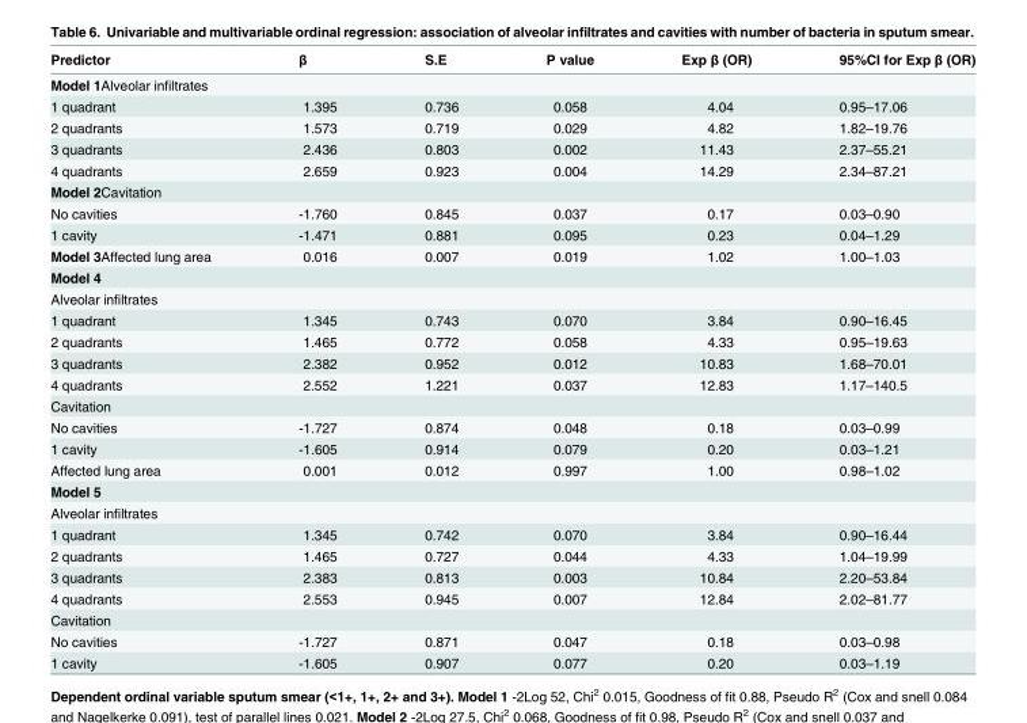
<table><thead><tr><td>Predictor</td><td>β</td><td>S.E</td><td>P value</td><td>Exp β (OR)</td><td>95%CI for Exp β (OR)</td></tr></thead><tbody><tr><td colspan="6">Model 1Alveolar infiltrates</td></tr><tr><td>1 quadrant</td><td>1.395</td><td>0.736</td><td>0.058</td><td>4.04</td><td>0.95–17.06</td></tr><tr><td>2 quadrants</td><td>1.573</td><td>0.719</td><td>0.029</td><td>4.82</td><td>1.82–19.76</td></tr><tr><td>3 quadrants</td><td>2.436</td><td>0.803</td><td>0.002</td><td>11.43</td><td>2.37–55.21</td></tr><tr><td>4 quadrants</td><td>2.659</td><td>0.923</td><td>0.004</td><td>14.29</td><td>2.34–87.21</td></tr><tr><td colspan="6">Model 2Cavitation</td></tr><tr><td>No cavities</td><td>-1.760</td><td>0.845</td><td>0.037</td><td>0.17</td><td>0.03–0.90</td></tr><tr><td>1 cavity</td><td>-1.471</td><td>0.881</td><td>0.095</td><td>0.23</td><td>0.04–1.29</td></tr><tr><td>Model 3Affected lung area</td><td>0.016</td><td>0.007</td><td>0.019</td><td>1.02</td><td>1.00–1.03</td></tr><tr><td colspan="6">Model 4</td></tr><tr><td colspan="6">Alveolar infiltrates</td></tr><tr><td>1 quadrant</td><td>1.345</td><td>0.743</td><td>0.070</td><td>3.84</td><td>0.90–16.45</td></tr><tr><td>2 quadrants</td><td>1.465</td><td>0.772</td><td>0.058</td><td>4.33</td><td>0.95–19.63</td></tr><tr><td>3 quadrants</td><td>2.382</td><td>0.952</td><td>0.012</td><td>10.83</td><td>1.68–70.01</td></tr><tr><td>4 quadrants</td><td>2.552</td><td>1.221</td><td>0.037</td><td>12.83</td><td>1.17–140.5</td></tr><tr><td colspan="6">Cavitation</td></tr><tr><td>No cavities</td><td>-1.727</td><td>0.874</td><td>0.048</td><td>0.18</td><td>0.03–0.99</td></tr><tr><td>1 cavity</td><td>-1.605</td><td>0.914</td><td>0.079</td><td>0.20</td><td>0.03–1.21</td></tr><tr><td>Affected lung area</td><td>0.001</td><td>0.012</td><td>0.997</td><td>1.00</td><td>0.98–1.02</td></tr><tr><td colspan="6">Model 5</td></tr><tr><td colspan="6">Alveolar infiltrates</td></tr><tr><td>1 quadrant</td><td>1.345</td><td>0.742</td><td>0.070</td><td>3.84</td><td>0.90–16.44</td></tr><tr><td>2 quadrants</td><td>1.465</td><td>0.727</td><td>0.044</td><td>4.33</td><td>1.04–19.99</td></tr><tr><td>3 quadrants</td><td>2.383</td><td>0.813</td><td>0.003</td><td>10.84</td><td>2.20–53.84</td></tr><tr><td>4 quadrants</td><td>2.553</td><td>0.945</td><td>0.007</td><td>12.84</td><td>2.02–81.77</td></tr><tr><td colspan="6">Cavitation</td></tr><tr><td>No cavities</td><td>-1.727</td><td>0.871</td><td>0.047</td><td>0.18</td><td>0.03–0.98</td></tr><tr><td>1 cavity</td><td>-1.605</td><td>0.907</td><td>0.077</td><td>0.20</td><td>0.03–1.19</td></tr></tbody></table>